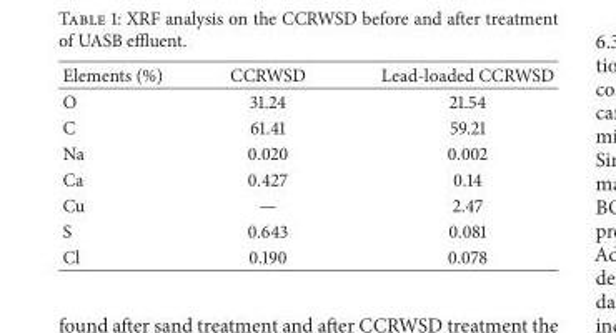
<table><thead><tr><td>Elements (%)</td><td>CCRWSD</td><td>Lead-loaded CCRWSD</td></tr></thead><tbody><tr><td>O</td><td>31.24</td><td>21.54</td></tr><tr><td>C</td><td>61.41</td><td>59.21</td></tr><tr><td>Na</td><td>0.020</td><td>0.002</td></tr><tr><td>Ca</td><td>0.427</td><td>0.14</td></tr><tr><td>Cu</td><td>—</td><td>2.47</td></tr><tr><td>S</td><td>0.643</td><td>0.081</td></tr><tr><td>Cl</td><td>0.190</td><td>0.078</td></tr></tbody></table>